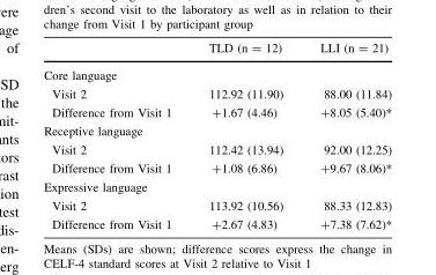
<table><thead><tr><td></td><td>TLD (n = 12)</td><td>LLI (n = 21)</td></tr></thead><tbody><tr><td colspan="3">Core language</td></tr><tr><td>Visit 2</td><td>112.92 (11.90)</td><td>88.00 (11.84)</td></tr><tr><td>Difference from Visit 1</td><td>+1.67 (4.46)</td><td>+8.05 (5.40)*</td></tr><tr><td colspan="3">Receptive language</td></tr><tr><td>Visit 2</td><td>112.42 (13.94)</td><td>92.00 (12.25)</td></tr><tr><td>Difference from Visit 1</td><td>+1.08 (6.86)</td><td>+9.67 (8.06)*</td></tr><tr><td colspan="3">Expressive language</td></tr><tr><td>Visit 2</td><td>113.92 (10.56)</td><td>88.33 (12.83)</td></tr><tr><td>Difference from Visit 1</td><td>+2.67 (4.83)</td><td>+7.38 (7.62)*</td></tr></tbody></table>